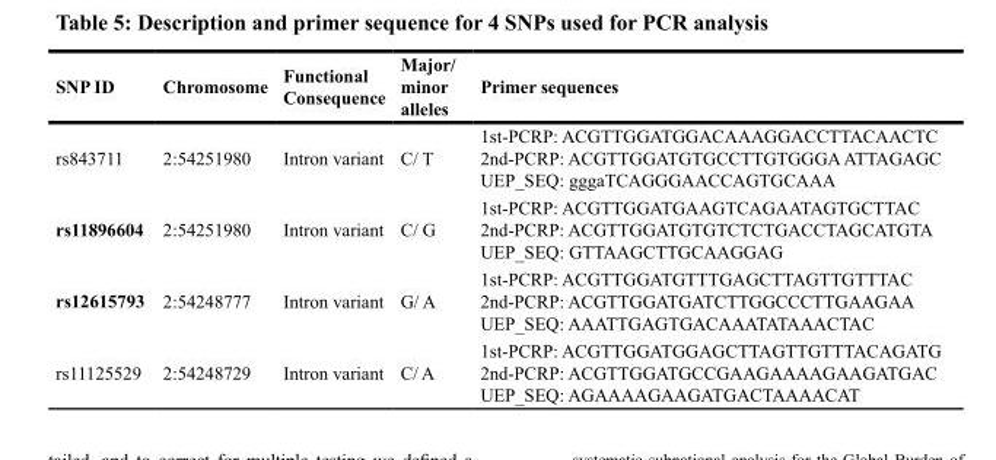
<table><thead><tr><td>SNP ID</td><td>Chromosome</td><td>Functional Consequence</td><td>Major/ minor alleles</td><td>Primer sequences</td></tr></thead><tbody><tr><td>rs843711</td><td>2:54251980</td><td>Intron variant</td><td>C/ T</td><td>1st-PCRP: ACGTTGGATGGACAAAGGACCTTACAACTC 2nd-PCRP: ACGTTGGATGTGCCTTGTGGGA ATTAGAGC UEP_SEQ: gggaTCAGGGAACCAGTGCAAA</td></tr><tr><td>rs11896604</td><td>2:54251980</td><td>Intron variant</td><td>C/ G</td><td>1st-PCRP: ACGTTGGATGAAGTCAGAATAGTGCTTAC 2nd-PCRP: ACGTTGGATGTGTCTCTGACCTAGCATGTA UEP_SEQ: GTTAAGCTTGCAAGGAG</td></tr><tr><td>rs12615793</td><td>2:54248777</td><td>Intron variant</td><td>G/ A</td><td>1st-PCRP: ACGTTGGATGTTTGAGCTTAGTTGTTTAC 2nd-PCRP: ACGTTGGATGATCTTGGCCCTTGAAGAA UEP_SEQ: AAATTGAGTGACAAATATAAACTAC</td></tr><tr><td>rs11125529</td><td>2:54248729</td><td>Intron variant</td><td>C/ A</td><td>1st-PCRP: ACGTTGGATGGAGCTTAGTTGTTTACAGATG 2nd-PCRP: ACGTTGGATGCCGAAGAAAAGAAGATGAC UEP_SEQ: AGAAAAGAAGATGACTAAAACAT</td></tr></tbody></table>